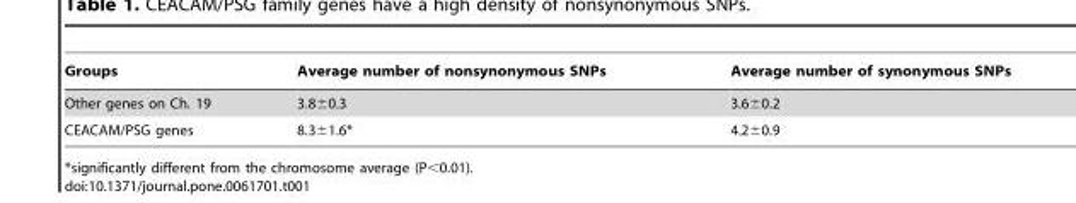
<table><thead><tr><td>Groups</td><td>Average number of nonsynonymous SNPs</td><td>Average number of synonymous SNPs</td></tr></thead><tbody><tr><td>Other genes on Ch. 19</td><td>3.8±0.3</td><td>3.6±0.2</td></tr><tr><td>CEACAM/PSG genes</td><td>8.3±1.6*</td><td>4.2±0.9</td></tr></tbody></table>